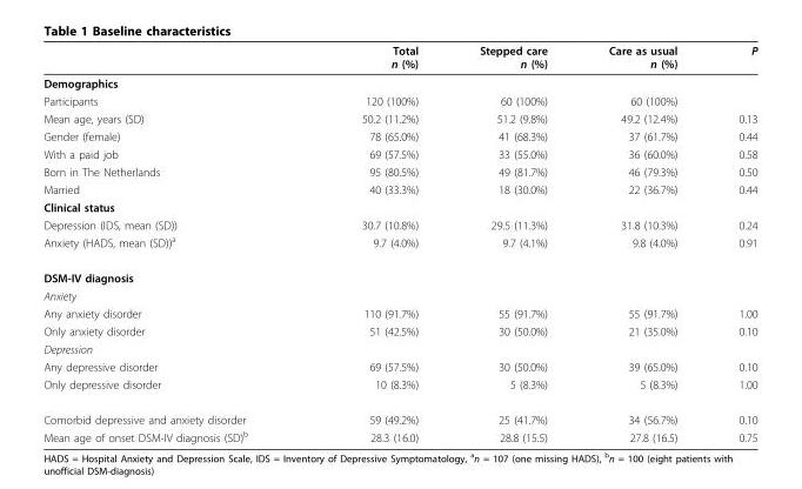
<table><thead><tr><td></td><td>Total n (%)</td><td>Stepped care n (%)</td><td>Care as usual n (%)</td><td>P</td></tr></thead><tbody><tr><td colspan="5">Demographics</td></tr><tr><td>Participants</td><td>120 (100%)</td><td>60 (100%)</td><td>60 (100%)</td><td></td></tr><tr><td>Mean age, years (SD)</td><td>50.2 (11.2%)</td><td>51.2 (9.8%)</td><td>49.2 (12.4%)</td><td>0.13</td></tr><tr><td>Gender (female)</td><td>78 (65.0%)</td><td>41 (68.3%)</td><td>37 (61.7%)</td><td>0.44</td></tr><tr><td>With a paid job</td><td>69 (57.5%)</td><td>33 (55.0%)</td><td>36 (60.0%)</td><td>0.58</td></tr><tr><td>Born in The Netherlands</td><td>95 (80.5%)</td><td>49 (81.7%)</td><td>46 (79.3%)</td><td>0.50</td></tr><tr><td>Married</td><td>40 (33.3%)</td><td>18 (30.0%)</td><td>22 (36.7%)</td><td>0.44</td></tr><tr><td colspan="5">Clinical status</td></tr><tr><td>Depression (IDS, mean (SD))</td><td>30.7 (10.8%)</td><td>29.5 (11.3%)</td><td>31.8 (10.3%)</td><td>0.24</td></tr><tr><td>Anxiety (HADS, mean (SD))<sup>a</sup></td><td>9.7 (4.0%)</td><td>9.7 (4.1%)</td><td>9.8 (4.0%)</td><td>0.91</td></tr><tr><td colspan="5">DSM-IV diagnosis</td></tr><tr><td colspan="5">Anxiety</td></tr><tr><td>Any anxiety disorder</td><td>110 (91.7%)</td><td>55 (91.7%)</td><td>55 (91.7%)</td><td>1.00</td></tr><tr><td>Only anxiety disorder</td><td>51 (42.5%)</td><td>30 (50.0%)</td><td>21 (35.0%)</td><td>0.10</td></tr><tr><td colspan="5">Depression</td></tr><tr><td>Any depressive disorder</td><td>69 (57.5%)</td><td>30 (50.0%)</td><td>39 (65.0%)</td><td>0.10</td></tr><tr><td>Only depressive disorder</td><td>10 (8.3%)</td><td>5 (8.3%)</td><td>5 (8.3%)</td><td>1.00</td></tr><tr><td>Comorbid depressive and anxiety disorder</td><td>59 (49.2%)</td><td>25 (41.7%)</td><td>34 (56.7%)</td><td>0.10</td></tr><tr><td>Mean age of onset DSM-IV diagnosis (SD)<sup>b</sup></td><td>28.3 (16.0)</td><td>28.8 (15.5)</td><td>27.8 (16.5)</td><td>0.75</td></tr></tbody></table>